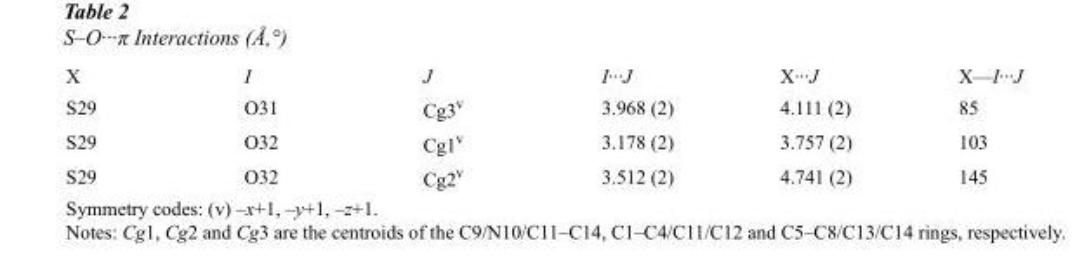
<table><tbody><tr><td>X</td><td>I</td><td>J</td><td>I···J</td><td>X···J</td><td>X—I···J</td></tr><tr><td>S29</td><td>O31</td><td>Cg3<sup>v</sup></td><td>3.968 (2)</td><td>4.111 (2)</td><td>85</td></tr><tr><td>S29</td><td>O32</td><td>Cg1<sup>v</sup></td><td>3.178 (2)</td><td>3.757 (2)</td><td>103</td></tr><tr><td>S29</td><td>O32</td><td>Cg2<sup>v</sup></td><td>3.512 (2)</td><td>4.741 (2)</td><td>145</td></tr></tbody></table>